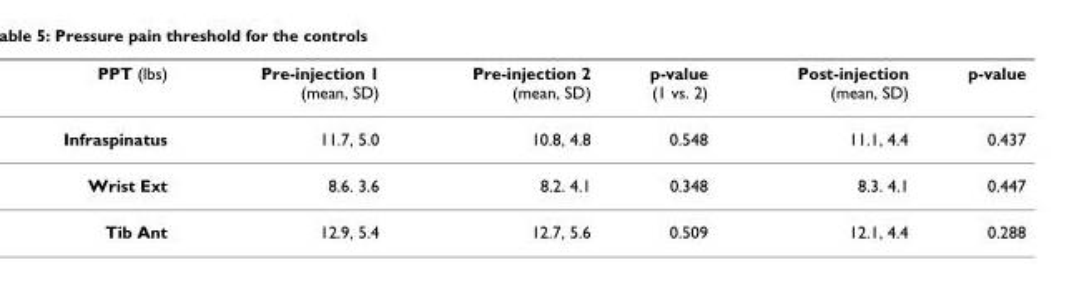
<table><thead><tr><td>PPT (lbs)</td><td>Pre-injection 1 (mean, SD)</td><td>Pre-injection 2 (mean, SD)</td><td>p-value (1 vs. 2)</td><td>Post-injection (mean, SD)</td><td>p-value</td></tr></thead><tbody><tr><td>Infraspinatus</td><td>11.7, 5.0</td><td>10.8, 4.8</td><td>0.548</td><td>11.1, 4.4</td><td>0.437</td></tr><tr><td>Wrist Ext</td><td>8.6. 3.6</td><td>8.2. 4.1</td><td>0.348</td><td>8.3. 4.1</td><td>0.447</td></tr><tr><td>Tib Ant</td><td>12.9, 5.4</td><td>12.7, 5.6</td><td>0.509</td><td>12.1, 4.4</td><td>0.288</td></tr></tbody></table>